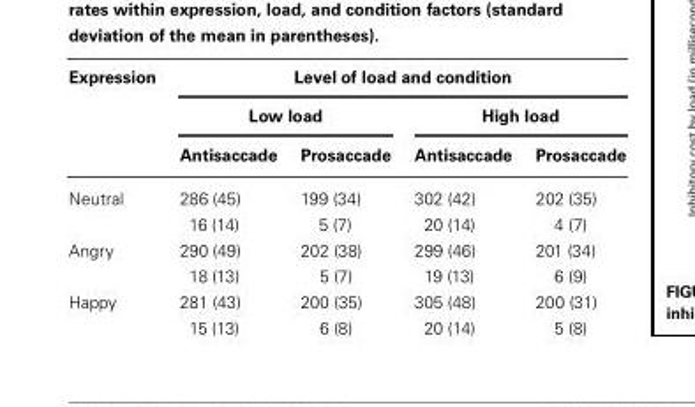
<table><thead><tr><td rowspan="3">Expression</td><td colspan="4">Level of load and condition</td></tr><tr><td colspan="2">Low load</td><td colspan="2">High load</td></tr><tr><td>Antisaccade</td><td>Prosaccade</td><td>Antisaccade</td><td>Prosaccade</td></tr></thead><tbody><tr><td rowspan="2">Neutral</td><td>286 (45)</td><td>199 (34)</td><td>302 (42)</td><td>202 (35)</td></tr><tr><td>16 (14)</td><td>5 (7)</td><td>20 (14)</td><td>4 (7)</td></tr><tr><td rowspan="2">Angry</td><td>290 (49)</td><td>202 (38)</td><td>299 (46)</td><td>201 (34)</td></tr><tr><td>18 (13)</td><td>5 (7)</td><td>19 (13)</td><td>6 (9)</td></tr><tr><td rowspan="2">Happy</td><td>281 (43)</td><td>200 (35)</td><td>305 (48)</td><td>200 (31)</td></tr><tr><td>15 (13)</td><td>6 (8)</td><td>20 (14)</td><td>5 (8)</td></tr></tbody></table>